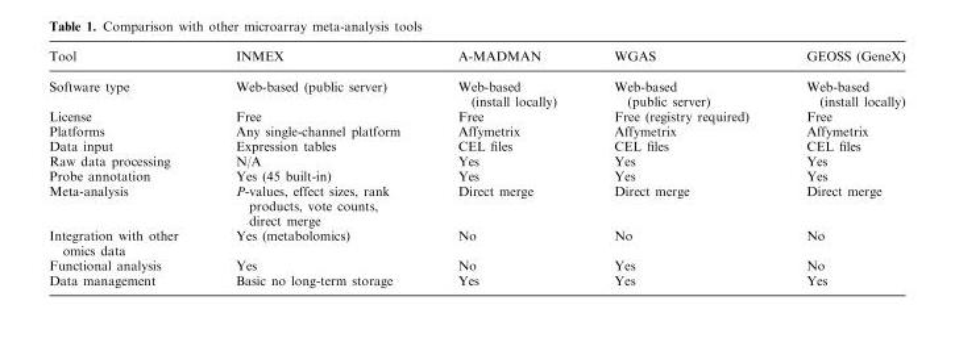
<table><thead><tr><td>Tool</td><td>INMEX</td><td>A-MADMAN</td><td>WGAS</td><td>GEOSS (GeneX)</td></tr></thead><tbody><tr><td>Software type</td><td>Web-based (public server)</td><td>Web-based (install locally)</td><td>Web-based (public server)</td><td>Web-based (install locally)</td></tr><tr><td>License</td><td>Free</td><td>Free</td><td>Free (registry required)</td><td>Free</td></tr><tr><td>Platforms</td><td>Any single-channel platform</td><td>Affymetrix</td><td>Affymetrix</td><td>Affymetrix</td></tr><tr><td>Data input</td><td>Expression tables</td><td>CEL files</td><td>CEL files</td><td>CEL files</td></tr><tr><td>Raw data processing</td><td>N/A</td><td>Yes</td><td>Yes</td><td>Yes</td></tr><tr><td>Probe annotation</td><td>Yes (45 built-in)</td><td>Yes</td><td>Yes</td><td>Yes</td></tr><tr><td>Meta-analysis</td><td>P-values, effect sizes, rank products, vote counts, direct merge</td><td>Direct merge</td><td>Direct merge</td><td>Direct merge</td></tr><tr><td>Integration with other omics data</td><td>Yes (metabolomics)</td><td>No</td><td>No</td><td>No</td></tr><tr><td>Functional analysis</td><td>Yes</td><td>No</td><td>Yes</td><td>No</td></tr><tr><td>Data management</td><td>Basic no long-term storage</td><td>Yes</td><td>Yes</td><td>Yes</td></tr></tbody></table>